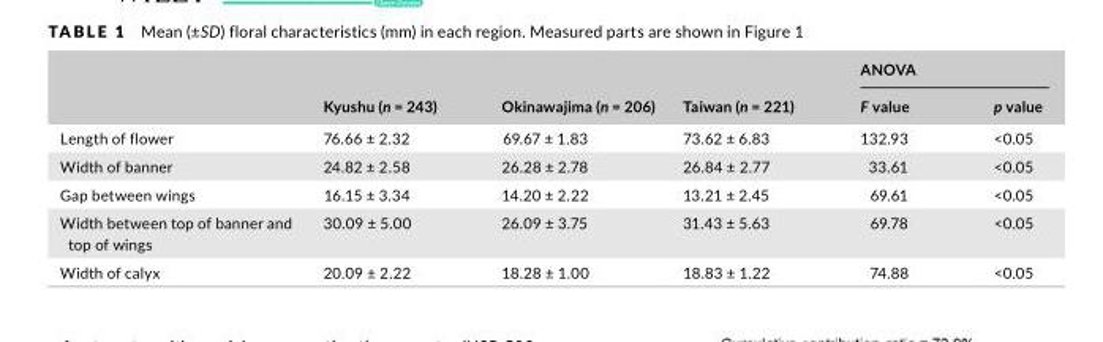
<table><thead><tr><td rowspan="2"></td><td rowspan="2">Kyushu (n = 243)</td><td rowspan="2">Okinawajima (n = 206)</td><td rowspan="2">Taiwan (n = 221)</td><td colspan="2">ANOVA</td></tr><tr><td>F value</td><td>p value</td></tr></thead><tbody><tr><td>Length of flower</td><td>76.66 ± 2.32</td><td>69.67 ± 1.83</td><td>73.62 ± 6.83</td><td>132.93</td><td>&lt;0.05</td></tr><tr><td>Width of banner</td><td>24.82 ± 2.58</td><td>26.28 ± 2.78</td><td>26.84 ± 2.77</td><td>33.61</td><td>&lt;0.05</td></tr><tr><td>Gap between wings</td><td>16.15 ± 3.34</td><td>14.20 ± 2.22</td><td>13.21 ± 2.45</td><td>69.61</td><td>&lt;0.05</td></tr><tr><td>Width between top of banner and top of wings</td><td>30.09 ± 5.00</td><td>26.09 ± 3.75</td><td>31.43 ± 5.63</td><td>69.78</td><td>&lt;0.05</td></tr><tr><td>Width of calyx</td><td>20.09 ± 2.22</td><td>18.28 ± 1.00</td><td>18.83 ± 1.22</td><td>74.88</td><td>&lt;0.05</td></tr></tbody></table>